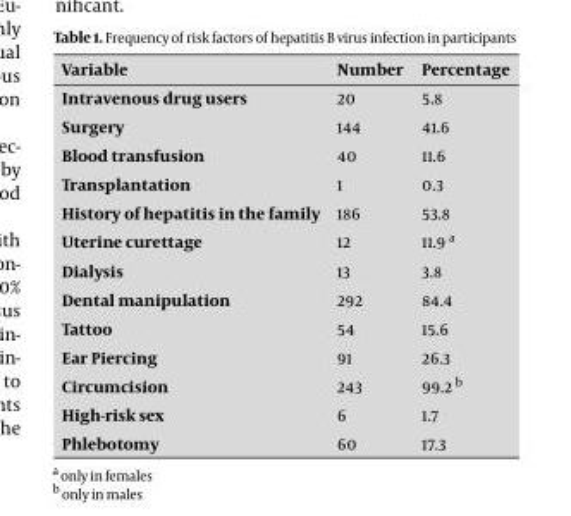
<table><thead><tr><td>Variable</td><td>Number</td><td>Percentage</td></tr></thead><tbody><tr><td>Intravenous drug users</td><td>20</td><td>5.8</td></tr><tr><td>Surgery</td><td>144</td><td>41.6</td></tr><tr><td>Blood transfusion</td><td>40</td><td>11.6</td></tr><tr><td>Transplantation</td><td>1</td><td>0.3</td></tr><tr><td>History of hepatitis in the family</td><td>186</td><td>53.8</td></tr><tr><td>Uterine curettage</td><td>12</td><td>11.9 <sup>a</sup></td></tr><tr><td>Dialysis</td><td>13</td><td>3.8</td></tr><tr><td>Dental manipulation</td><td>292</td><td>84.4</td></tr><tr><td>Tattoo</td><td>54</td><td>15.6</td></tr><tr><td>Ear Piercing</td><td>91</td><td>26.3</td></tr><tr><td>Circumcision</td><td>243</td><td>99.2 <sup>b</sup></td></tr><tr><td>High-risk sex</td><td>6</td><td>1.7</td></tr><tr><td>Phlebotomy</td><td>60</td><td>17.3</td></tr></tbody></table>